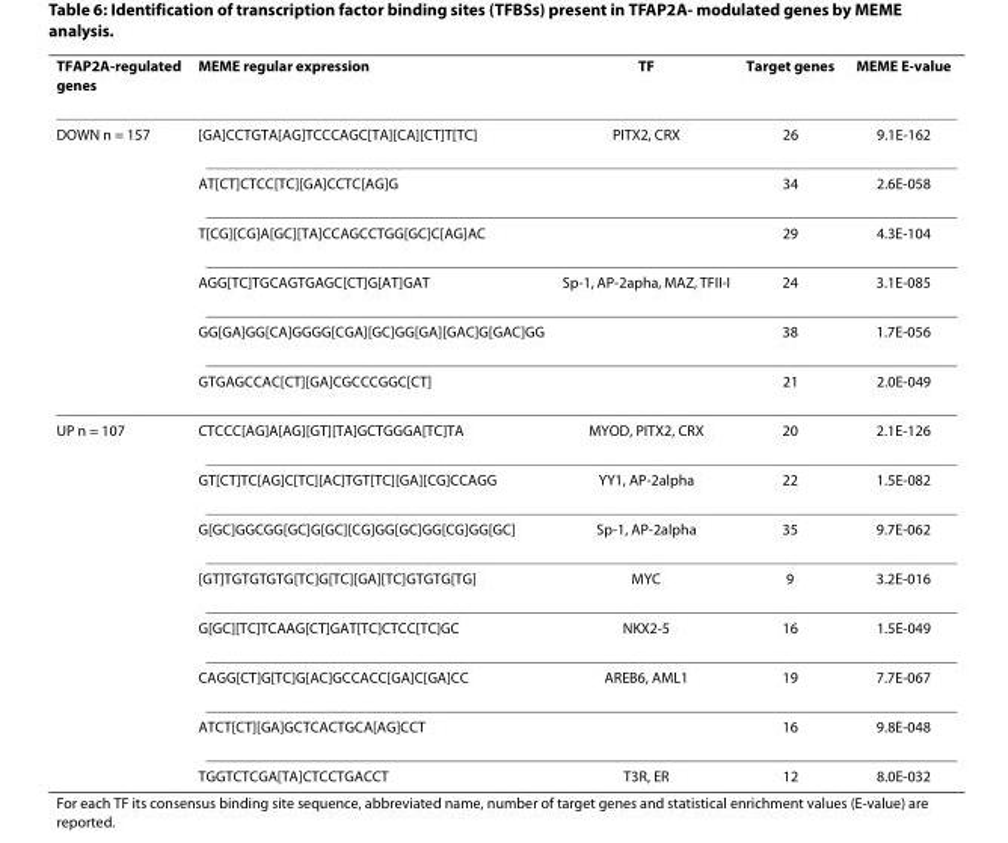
<table><thead><tr><td>TFAP2A-regulated genes</td><td>MEME regular expression</td><td>TF</td><td>Target genes</td><td>MEME E-value</td></tr></thead><tbody><tr><td rowspan="6">DOWN n = 157</td><td>[GA]CCTGTA[AG]TCCCAGC[TA][CA][CT]T[TC]</td><td>PITX2, CRX</td><td>26</td><td>9.1E-162</td></tr><tr><td>AT[CT]CTCC[TC][GA]CCTC[AG]G</td><td></td><td>34</td><td>2.6E-058</td></tr><tr><td>T[CG][CG]A[GC][TA]CCAGCCTGG[GC]C[AG]AC</td><td></td><td>29</td><td>4.3E-104</td></tr><tr><td>AGG[TC]TGCAGTGAGC[CT]G[AT]GAT</td><td>Sp-1, AP-2apha, MAZ, TFII-I</td><td>24</td><td>3.1E-085</td></tr><tr><td>GG[GA]GG[CA]GGGG[CGA][GC]GG[GA][GAC]G[GAC]GG</td><td></td><td>38</td><td>1.7E-056</td></tr><tr><td>GTGAGCCAC[CT][GA]CGCCCGGC[CT]</td><td></td><td>21</td><td>2.0E-049</td></tr><tr><td rowspan="8">UP n = 107</td><td>CTCCC[AG]A[AG][GT][TA]GCTGGGA[TC]TA</td><td>MYOD, PITX2, CRX</td><td>20</td><td>2.1E-126</td></tr><tr><td>GT[CT]TC[AG]C[TC][AC]TGT[TC][GA][CG]CCAGG</td><td>YY1, AP-2alpha</td><td>22</td><td>1.5E-082</td></tr><tr><td>G[GC]GGCGG[GC]G[GC][CG]GG[GC]GG[CG]GG[GC]</td><td>Sp-1, AP-2alpha</td><td>35</td><td>9.7E-062</td></tr><tr><td>[GT]TGTGTGTG[TC]G[TC][GA][TC]GTGTG[TG]</td><td>MYC</td><td>9</td><td>3.2E-016</td></tr><tr><td>G[GC][TC]TCAAG[CT]GAT[TC]CTCC[TC]GC</td><td>NKX2-5</td><td>16</td><td>1.5E-049</td></tr><tr><td>CAGG[CT]G[TC]G[AC]GCCACC[GA]C[GA]CC</td><td>AREB6, AML1</td><td>19</td><td>7.7E-067</td></tr><tr><td>ATCT[CT][GA]GCTCACTGCA[AG]CCT</td><td></td><td>16</td><td>9.8E-048</td></tr><tr><td>TGGTCTCGA[TA]CTCCTGACCT</td><td>T3R, ER</td><td>12</td><td>8.0E-032</td></tr></tbody></table>